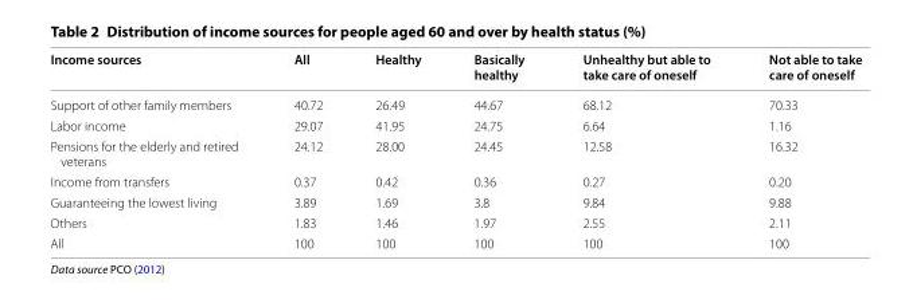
<table><thead><tr><td>Income sources</td><td>All</td><td>Healthy</td><td>Basically healthy</td><td>Unhealthy but able to take care of oneself</td><td>Not able to take care of oneself</td></tr></thead><tbody><tr><td>Support of other family members</td><td>40.72</td><td>26.49</td><td>44.67</td><td>68.12</td><td>70.33</td></tr><tr><td>Labor income</td><td>29.07</td><td>41.95</td><td>24.75</td><td>6.64</td><td>1.16</td></tr><tr><td>Pensions for the elderly and retired veterans</td><td>24.12</td><td>28.00</td><td>24.45</td><td>12.58</td><td>16.32</td></tr><tr><td>Income from transfers</td><td>0.37</td><td>0.42</td><td>0.36</td><td>0.27</td><td>0.20</td></tr><tr><td>Guaranteeing the lowest living</td><td>3.89</td><td>1.69</td><td>3.8</td><td>9.84</td><td>9.88</td></tr><tr><td>Others</td><td>1.83</td><td>1.46</td><td>1.97</td><td>2.55</td><td>2.11</td></tr><tr><td>All</td><td>100</td><td>100</td><td>100</td><td>100</td><td>100</td></tr></tbody></table>